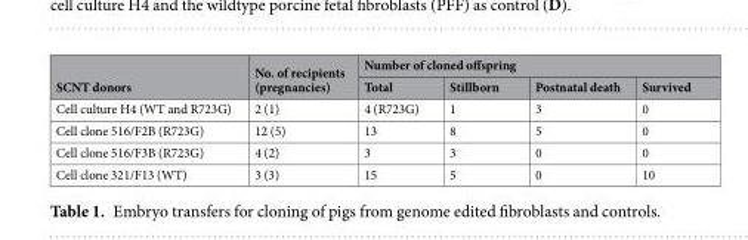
<table><thead><tr><td rowspan="2">SCNT donors</td><td rowspan="2">No. of recipients (pregnancies)</td><td colspan="4">Number of cloned offspring</td></tr><tr><td>Total</td><td>Stillborn</td><td>Postnatal death</td><td>Survived</td></tr></thead><tbody><tr><td>Cell culture H4 (WT and R723G)</td><td>2 (1)</td><td>4 (R723G)</td><td>1</td><td>3</td><td>0</td></tr><tr><td>Cell clone 516/F2B (R723G)</td><td>12 (5)</td><td>13</td><td>8</td><td>5</td><td>0</td></tr><tr><td>Cell clone 516/F3B (R723G)</td><td>4 (2)</td><td>3</td><td>3</td><td>0</td><td>0</td></tr><tr><td>Cell clone 321/F13 (WT)</td><td>3 (3)</td><td>15</td><td>5</td><td>0</td><td>10</td></tr></tbody></table>